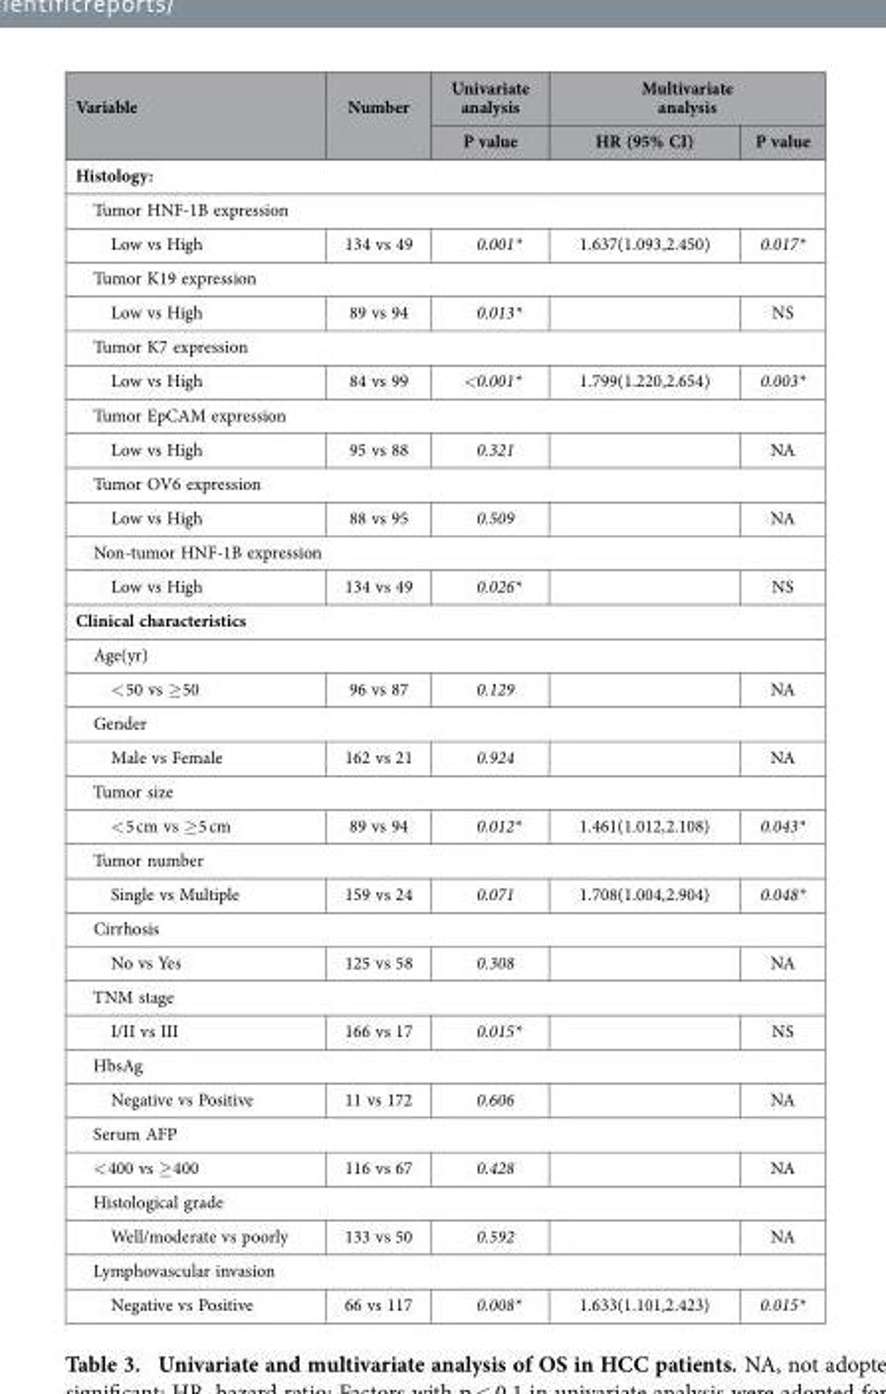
<table><thead><tr><td rowspan="2">Variable</td><td rowspan="2">Number</td><td rowspan="2">Univariate analysis P value</td><td colspan="2">Multivariate analysis</td></tr><tr><td>HR (95% CI)</td><td>P value</td></tr></thead><tbody><tr><td colspan="5">Histology:</td></tr><tr><td colspan="5">Tumor HNF-1B expression</td></tr><tr><td>Low vs High</td><td>134 vs 49</td><td>0.001*</td><td>1.637(1.093,2.450)</td><td>0.017*</td></tr><tr><td colspan="5">Tumor K19 expression</td></tr><tr><td>Low vs High</td><td>89 vs 94</td><td>0.013*</td><td></td><td>NS</td></tr><tr><td colspan="5">Tumor K7 expression</td></tr><tr><td>Low vs High</td><td>84 vs 99</td><td>&lt;0.001*</td><td>1.799(1.220,2.654)</td><td>0.003*</td></tr><tr><td colspan="5">Tumor EpCAM expression</td></tr><tr><td>Low vs High</td><td>95 vs 88</td><td>0.321</td><td></td><td>NA</td></tr><tr><td colspan="5">Tumor OV6 expression</td></tr><tr><td>Low vs High</td><td>88 vs 95</td><td>0.509</td><td></td><td>NA</td></tr><tr><td colspan="5">Non-tumor HNF-1B expression</td></tr><tr><td>Low vs High</td><td>134 vs 49</td><td>0.026*</td><td></td><td>NS</td></tr><tr><td colspan="5">Clinical characteristics</td></tr><tr><td colspan="5">Age(yr)</td></tr><tr><td>&lt; 50 vs ≥ 50</td><td>96 vs 87</td><td>0.129</td><td></td><td>NA</td></tr><tr><td colspan="5">Gender</td></tr><tr><td>Male vs Female</td><td>162 vs 21</td><td>0.924</td><td></td><td>NA</td></tr><tr><td colspan="5">Tumor size</td></tr><tr><td>&lt; 5 cm vs ≥ 5 cm</td><td>89 vs 94</td><td>0.012*</td><td>1.461(1.012,2.108)</td><td>0.043*</td></tr><tr><td colspan="5">Tumor number</td></tr><tr><td>Single vs Multiple</td><td>159 vs 24</td><td>0.071</td><td>1.708(1.004,2.904)</td><td>0.048*</td></tr><tr><td colspan="5">Cirrhosis</td></tr><tr><td>No vs Yes</td><td>125 vs 58</td><td>0.308</td><td></td><td>NA</td></tr><tr><td colspan="5">TNM stage</td></tr><tr><td>I/II vs III</td><td>166 vs 17</td><td>0.015*</td><td></td><td>NS</td></tr><tr><td colspan="5">HbsAg</td></tr><tr><td>Negative vs Positive</td><td>11 vs 172</td><td>0.606</td><td></td><td>NA</td></tr><tr><td colspan="5">Serum AFP</td></tr><tr><td>&lt; 400 vs ≥ 400</td><td>116 vs 67</td><td>0.428</td><td></td><td>NA</td></tr><tr><td colspan="5">Histological grade</td></tr><tr><td>Well/moderate vs poorly</td><td>133 vs 50</td><td>0.592</td><td></td><td>NA</td></tr><tr><td colspan="5">Lymphovascular invasion</td></tr><tr><td>Negative vs Positive</td><td>66 vs 117</td><td>0.008*</td><td>1.633(1.101,2.423)</td><td>0.015*</td></tr></tbody></table>